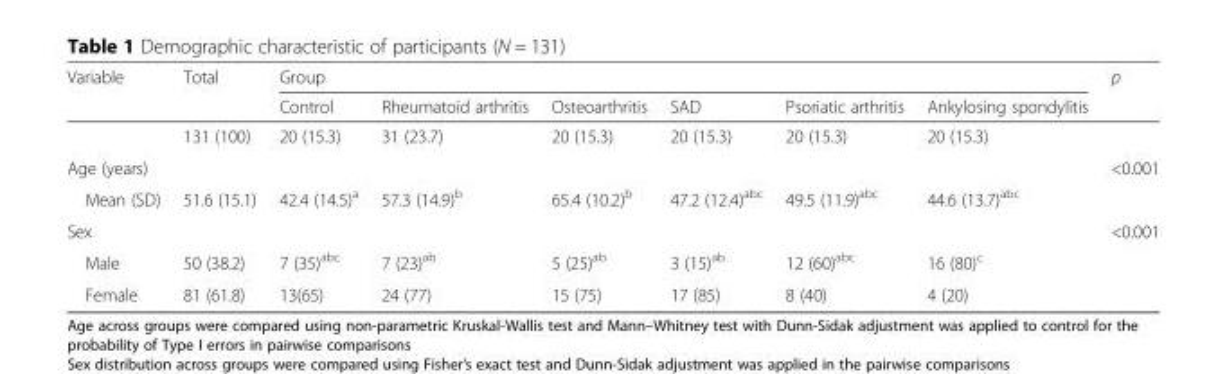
<table><thead><tr><td rowspan="2">Variable</td><td rowspan="2">Total</td><td colspan="6">Group</td><td rowspan="2">p</td></tr><tr><td>Control</td><td>Rheumatoid arthritis</td><td>Osteoarthritis</td><td>SAD</td><td>Psoriatic arthritis</td><td>Ankylosing spondylitis</td></tr></thead><tbody><tr><td></td><td>131 (100)</td><td>20 (15.3)</td><td>31 (23.7)</td><td>20 (15.3)</td><td>20 (15.3)</td><td>20 (15.3)</td><td>20 (15.3)</td><td></td></tr><tr><td colspan="8">Age (years)</td><td rowspan="2">&lt;0.001</td></tr><tr><td>Mean (SD)</td><td>51.6 (15.1)</td><td>42.4 (14.5)<sup>a</sup></td><td>57.3 (14.9)<sup>b</sup></td><td>65.4 (10.2)<sup>b</sup></td><td>47.2 (12.4)<sup>abc</sup></td><td>49.5 (11.9)<sup>abc</sup></td><td>44.6 (13.7)<sup>abc</sup></td></tr><tr><td colspan="8">Sex</td><td rowspan="3">&lt;0.001</td></tr><tr><td>Male</td><td>50 (38.2)</td><td>7 (35)<sup>abc</sup></td><td>7 (23)<sup>ab</sup></td><td>5 (25)<sup>ab</sup></td><td>3 (15)<sup>ab</sup></td><td>12 (60)<sup>abc</sup></td><td>16 (80)<sup>c</sup></td></tr><tr><td>Female</td><td>81 (61.8)</td><td>13(65)</td><td>24 (77)</td><td>15 (75)</td><td>17 (85)</td><td>8 (40)</td><td>4 (20)</td></tr></tbody></table>